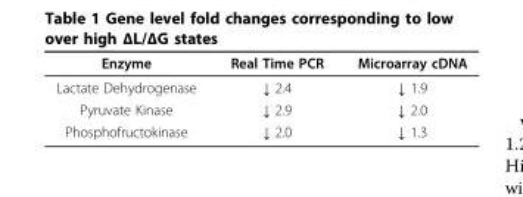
<table><thead><tr><td>Enzyme</td><td>Real Time PCR</td><td>Microarray cDNA</td></tr></thead><tbody><tr><td>Lactate Dehydrogenase</td><td>↓ 2.4</td><td>↓ 1.9</td></tr><tr><td>Pyruvate Kinase</td><td>↓ 2.9</td><td>↓ 2.0</td></tr><tr><td>Phosphofructokinase</td><td>↓ 2.0</td><td>↓ 1.3</td></tr></tbody></table>